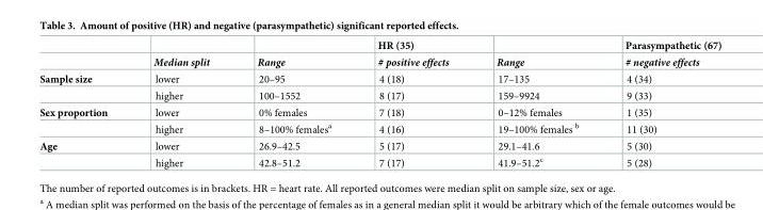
<table><thead><tr><td rowspan="2"></td><td rowspan="2">Median split</td><td rowspan="2">Range</td><td rowspan="2">HR (35) # positive effects</td><td rowspan="2">Range</td><td rowspan="2">Parasympathetic (67) # negative effects</td></tr><tr></tr></thead><tbody><tr><td rowspan="2">Sample size</td><td>lower</td><td>20–95</td><td>4 (18)</td><td>17–135</td><td>4 (34)</td></tr><tr><td>higher</td><td>100–1552</td><td>8 (17)</td><td>159–9924</td><td>9 (33)</td></tr><tr><td rowspan="2">Sex proportion</td><td>lower</td><td>0% females</td><td>7 (18)</td><td>0–12% females</td><td>1 (35)</td></tr><tr><td>higher</td><td>8–100% females<sup>a</sup></td><td>4 (16)</td><td>19–100% females <sup>b</sup></td><td>11 (30)</td></tr><tr><td rowspan="2">Age</td><td>lower</td><td>26.9–42.5</td><td>5 (17)</td><td>29.1–41.6</td><td>5 (30)</td></tr><tr><td>higher</td><td>42.8–51.2</td><td>7 (17)</td><td>41.9–51.2<sup>c</sup></td><td>5 (28)</td></tr></tbody></table>